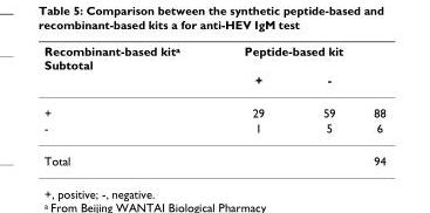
<table><thead><tr><td rowspan="2">Recombinant-based kit<sup>a</sup> Subtotal</td><td colspan="2">Peptide-based kit</td><td rowspan="2"></td></tr><tr><td>+</td><td>-</td></tr></thead><tbody><tr><td>+</td><td>29</td><td>59</td><td>88</td></tr><tr><td>-</td><td>1</td><td>5</td><td>6</td></tr><tr><td>Total</td><td></td><td></td><td>94</td></tr></tbody></table>